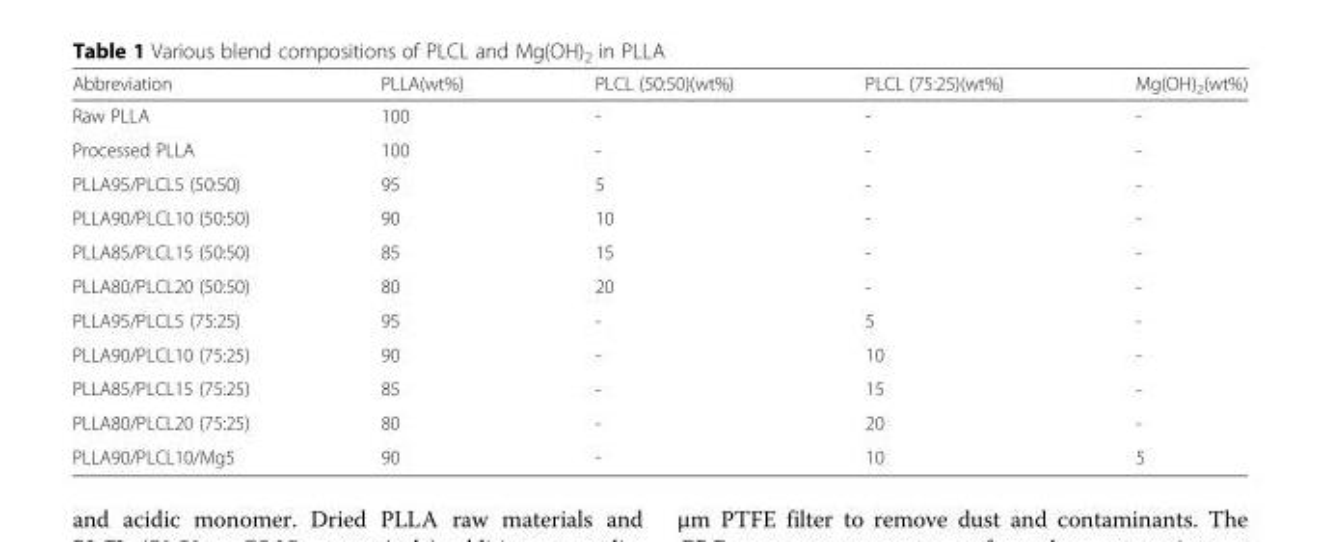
<table><thead><tr><td>Abbreviation</td><td>PLLA(wt%)</td><td>PLCL (50:50)(wt%)</td><td>PLCL (75:25)(wt%)</td><td>Mg(OH)<sub>2</sub>(wt%)</td></tr></thead><tbody><tr><td>Raw PLLA</td><td>100</td><td>-</td><td>-</td><td>-</td></tr><tr><td>Processed PLLA</td><td>100</td><td>-</td><td>-</td><td>-</td></tr><tr><td>PLLA95/PLCL5 (50:50)</td><td>95</td><td>5</td><td>-</td><td>-</td></tr><tr><td>PLLA90/PLCL10 (50:50)</td><td>90</td><td>10</td><td>-</td><td>-</td></tr><tr><td>PLLA85/PLCL15 (50:50)</td><td>85</td><td>15</td><td>-</td><td>-</td></tr><tr><td>PLLA80/PLCL20 (50:50)</td><td>80</td><td>20</td><td>-</td><td>-</td></tr><tr><td>PLLA95/PLCL5 (75:25)</td><td>95</td><td>-</td><td>5</td><td>-</td></tr><tr><td>PLLA90/PLCL10 (75:25)</td><td>90</td><td>-</td><td>10</td><td>-</td></tr><tr><td>PLLA85/PLCL15 (75:25)</td><td>85</td><td>-</td><td>15</td><td>-</td></tr><tr><td>PLLA80/PLCL20 (75:25)</td><td>80</td><td>-</td><td>20</td><td>-</td></tr><tr><td>PLLA90/PLCL10/Mg5</td><td>90</td><td>-</td><td>10</td><td>5</td></tr></tbody></table>